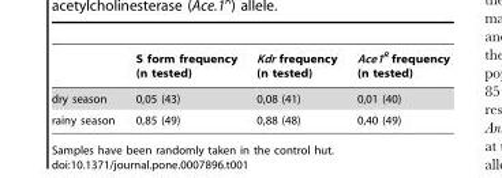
<table><thead><tr><td></td><td>S form frequency (n tested)</td><td>Kdr frequency (n tested)</td><td>Ace1<sup>R</sup> frequency (n tested)</td></tr></thead><tbody><tr><td>dry season</td><td>0,05 (43)</td><td>0,08 (41)</td><td>0,01 (40)</td></tr><tr><td>rainy season</td><td>0,85 (49)</td><td>0,88 (48)</td><td>0,40 (49)</td></tr></tbody></table>